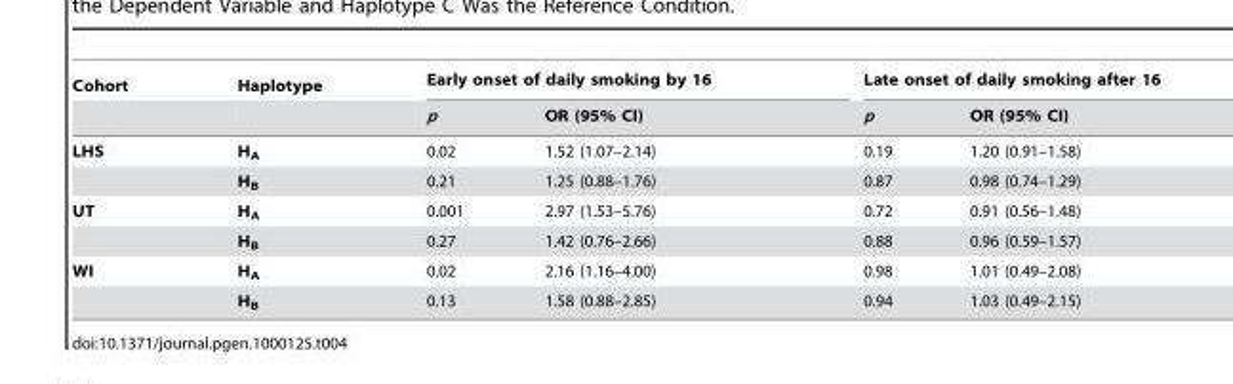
<table><thead><tr><td rowspan="2">Cohort</td><td rowspan="2">Haplotype</td><td colspan="2">Early onset of daily smoking by 16</td><td colspan="2">Late onset of daily smoking after 16</td></tr><tr><td>p</td><td>OR (95% CI)</td><td>p</td><td>OR (95% CI)</td></tr></thead><tbody><tr><td rowspan="2">LHS</td><td>H<sub>A</sub></td><td>0.02</td><td>1.52 (1.07–2.14)</td><td>0.19</td><td>1.20 (0.91–1.58)</td></tr><tr><td>H<sub>B</sub></td><td>0.21</td><td>1.25 (0.88–1.76)</td><td>0.87</td><td>0.98 (0.74–1.29)</td></tr><tr><td rowspan="2">UT</td><td>H<sub>A</sub></td><td>0.001</td><td>2.97 (1.53–5.76)</td><td>0.72</td><td>0.91 (0.56–1.48)</td></tr><tr><td>H<sub>B</sub></td><td>0.27</td><td>1.42 (0.76–2.66)</td><td>0.88</td><td>0.96 (0.59–1.57)</td></tr><tr><td rowspan="2">WI</td><td>H<sub>A</sub></td><td>0.02</td><td>2.16 (1.16–4.00)</td><td>0.98</td><td>1.01 (0.49–2.08)</td></tr><tr><td>H<sub>B</sub></td><td>0.13</td><td>1.58 (0.88–2.85)</td><td>0.94</td><td>1.03 (0.49–2.15)</td></tr></tbody></table>